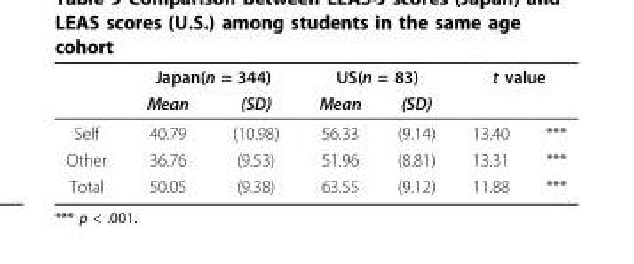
<table><thead><tr><td rowspan="2"></td><td colspan="2">Japan(n = 344)</td><td colspan="2">US(n = 83)</td><td colspan="2">t value</td></tr><tr><td>Mean</td><td>(SD)</td><td>Mean</td><td>(SD)</td><td></td><td></td></tr></thead><tbody><tr><td>Self</td><td>40.79</td><td>(10.98)</td><td>56.33</td><td>(9.14)</td><td>13.40</td><td>***</td></tr><tr><td>Other</td><td>36.76</td><td>(9.53)</td><td>51.96</td><td>(8.81)</td><td>13.31</td><td>***</td></tr><tr><td>Total</td><td>50.05</td><td>(9.38)</td><td>63.55</td><td>(9.12)</td><td>11.88</td><td>***</td></tr></tbody></table>